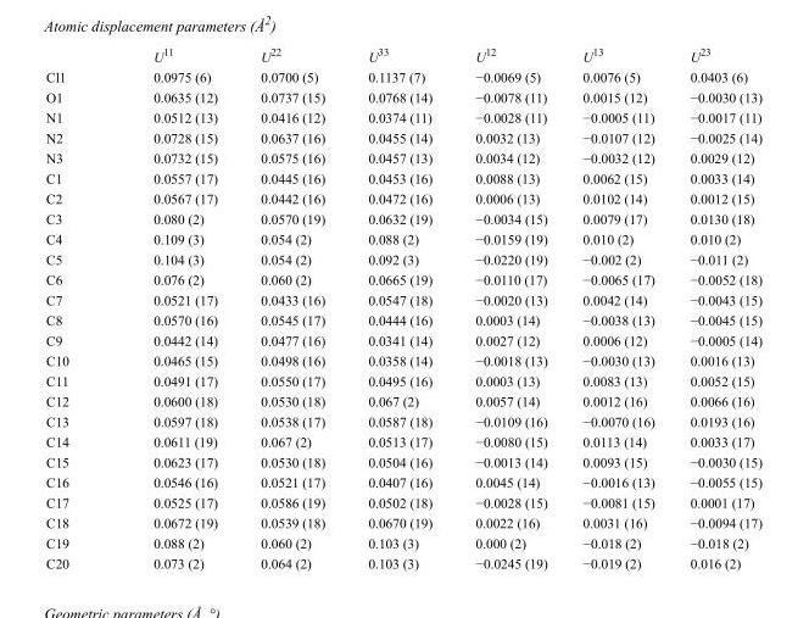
<table><thead><tr><td></td><td>U<sup>11</sup></td><td>U<sup>22</sup></td><td>U<sup>33</sup></td><td>U<sup>12</sup></td><td>U<sup>13</sup></td><td>U<sup>23</sup></td></tr></thead><tbody><tr><td>Cl1</td><td>0.0975 (6)</td><td>0.0700 (5)</td><td>0.1137 (7)</td><td>−0.0069 (5)</td><td>0.0076 (5)</td><td>0.0403 (6)</td></tr><tr><td>O1</td><td>0.0635 (12)</td><td>0.0737 (15)</td><td>0.0768 (14)</td><td>−0.0078 (11)</td><td>0.0015 (12)</td><td>−0.0030 (13)</td></tr><tr><td>N1</td><td>0.0512 (13)</td><td>0.0416 (12)</td><td>0.0374 (11)</td><td>−0.0028 (11)</td><td>−0.0005 (11)</td><td>−0.0017 (11)</td></tr><tr><td>N2</td><td>0.0728 (15)</td><td>0.0637 (16)</td><td>0.0455 (14)</td><td>0.0032 (13)</td><td>−0.0107 (12)</td><td>−0.0025 (14)</td></tr><tr><td>N3</td><td>0.0732 (15)</td><td>0.0575 (16)</td><td>0.0457 (13)</td><td>0.0034 (12)</td><td>−0.0032 (12)</td><td>0.0029 (12)</td></tr><tr><td>C1</td><td>0.0557 (17)</td><td>0.0445 (16)</td><td>0.0453 (16)</td><td>0.0088 (13)</td><td>0.0062 (15)</td><td>0.0033 (14)</td></tr><tr><td>C2</td><td>0.0567 (17)</td><td>0.0442 (16)</td><td>0.0472 (16)</td><td>0.0006 (13)</td><td>0.0102 (14)</td><td>0.0012 (15)</td></tr><tr><td>C3</td><td>0.080 (2)</td><td>0.0570 (19)</td><td>0.0632 (19)</td><td>−0.0034 (15)</td><td>0.0079 (17)</td><td>0.0130 (18)</td></tr><tr><td>C4</td><td>0.109 (3)</td><td>0.054 (2)</td><td>0.088 (2)</td><td>−0.0159 (19)</td><td>0.010 (2)</td><td>0.010 (2)</td></tr><tr><td>C5</td><td>0.104 (3)</td><td>0.054 (2)</td><td>0.092 (3)</td><td>−0.0220 (19)</td><td>−0.002 (2)</td><td>−0.011 (2)</td></tr><tr><td>C6</td><td>0.076 (2)</td><td>0.060 (2)</td><td>0.0665 (19)</td><td>−0.0110 (17)</td><td>−0.0065 (17)</td><td>−0.0052 (18)</td></tr><tr><td>C7</td><td>0.0521 (17)</td><td>0.0433 (16)</td><td>0.0547 (18)</td><td>−0.0020 (13)</td><td>0.0042 (14)</td><td>−0.0043 (15)</td></tr><tr><td>C8</td><td>0.0570 (16)</td><td>0.0545 (17)</td><td>0.0444 (16)</td><td>0.0003 (14)</td><td>−0.0038 (13)</td><td>−0.0045 (15)</td></tr><tr><td>C9</td><td>0.0442 (14)</td><td>0.0477 (16)</td><td>0.0341 (14)</td><td>0.0027 (12)</td><td>0.0006 (12)</td><td>−0.0005 (14)</td></tr><tr><td>C10</td><td>0.0465 (15)</td><td>0.0498 (16)</td><td>0.0358 (14)</td><td>−0.0018 (13)</td><td>−0.0030 (13)</td><td>0.0016 (13)</td></tr><tr><td>C11</td><td>0.0491 (17)</td><td>0.0550 (17)</td><td>0.0495 (16)</td><td>0.0003 (13)</td><td>0.0083 (13)</td><td>0.0052 (15)</td></tr><tr><td>C12</td><td>0.0600 (18)</td><td>0.0530 (18)</td><td>0.067 (2)</td><td>0.0057 (14)</td><td>0.0012 (16)</td><td>0.0066 (16)</td></tr><tr><td>C13</td><td>0.0597 (18)</td><td>0.0538 (17)</td><td>0.0587 (18)</td><td>−0.0109 (16)</td><td>−0.0070 (16)</td><td>0.0193 (16)</td></tr><tr><td>C14</td><td>0.0611 (19)</td><td>0.067 (2)</td><td>0.0513 (17)</td><td>−0.0080 (15)</td><td>0.0113 (14)</td><td>0.0033 (17)</td></tr><tr><td>C15</td><td>0.0623 (17)</td><td>0.0530 (18)</td><td>0.0504 (16)</td><td>−0.0013 (14)</td><td>0.0093 (15)</td><td>−0.0030 (15)</td></tr><tr><td>C16</td><td>0.0546 (16)</td><td>0.0521 (17)</td><td>0.0407 (16)</td><td>0.0045 (14)</td><td>−0.0016 (13)</td><td>−0.0055 (15)</td></tr><tr><td>C17</td><td>0.0525 (17)</td><td>0.0586 (19)</td><td>0.0502 (18)</td><td>−0.0028 (15)</td><td>−0.0081 (15)</td><td>0.0001 (17)</td></tr><tr><td>C18</td><td>0.0672 (19)</td><td>0.0539 (18)</td><td>0.0670 (19)</td><td>0.0022 (16)</td><td>0.0031 (16)</td><td>−0.0094 (17)</td></tr><tr><td>C19</td><td>0.088 (2)</td><td>0.060 (2)</td><td>0.103 (3)</td><td>0.000 (2)</td><td>−0.018 (2)</td><td>−0.018 (2)</td></tr><tr><td>C20</td><td>0.073 (2)</td><td>0.064 (2)</td><td>0.103 (3)</td><td>−0.0245 (19)</td><td>−0.019 (2)</td><td>0.016 (2)</td></tr></tbody></table>